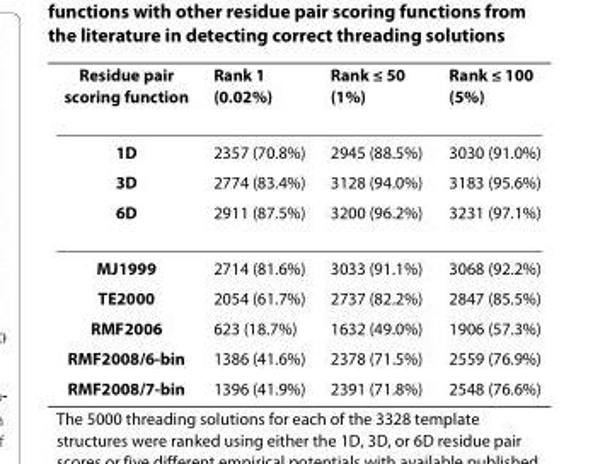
<table><thead><tr><td>Residue pair scoring function</td><td>Rank 1 (0.02%)</td><td>Rank ≤ 50 (1%)</td><td>Rank ≤ 100 (5%)</td></tr></thead><tbody><tr><td>1D</td><td>2357 (70.8%)</td><td>2945 (88.5%)</td><td>3030 (91.0%)</td></tr><tr><td>3D</td><td>2774 (83.4%)</td><td>3128 (94.0%)</td><td>3183 (95.6%)</td></tr><tr><td>6D</td><td>2911 (87.5%)</td><td>3200 (96.2%)</td><td>3231 (97.1%)</td></tr><tr><td>MJ1999</td><td>2714 (81.6%)</td><td>3033 (91.1%)</td><td>3068 (92.2%)</td></tr><tr><td>TE2000</td><td>2054 (61.7%)</td><td>2737 (82.2%)</td><td>2847 (85.5%)</td></tr><tr><td>RMF2006</td><td>623 (18.7%)</td><td>1632 (49.0%)</td><td>1906 (57.3%)</td></tr><tr><td>RMF2008/6-bin</td><td>1386 (41.6%)</td><td>2378 (71.5%)</td><td>2559 (76.9%)</td></tr><tr><td>RMF2008/7-bin</td><td>1396 (41.9%)</td><td>2391 (71.8%)</td><td>2548 (76.6%)</td></tr></tbody></table>